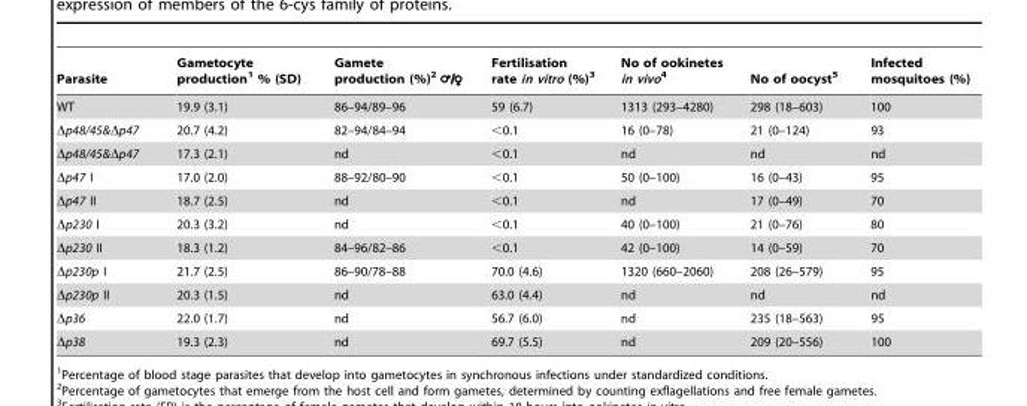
<table><thead><tr><td>Parasite</td><td>Gametocyte production<sup>1</sup> % (SD)</td><td>Gamete production (%)2 =/R</td><td>Fertilisation rate in vitro (%)<sup>3</sup></td><td>No of ookinetes in vivo4</td><td>No of oocyst<sup>5</sup></td><td>Infected mosquitoes (%)</td></tr></thead><tbody><tr><td>WT</td><td>19.9 (3.1)</td><td>86–94/89–96</td><td>59 (6.7)</td><td>1313 (293–4280)</td><td>298 (18–603)</td><td>100</td></tr><tr><td>Δp48/45&amp;Δp47</td><td>20.7 (4.2)</td><td>82–94/84–94</td><td>&lt;0.1</td><td>16 (0–78)</td><td>21 (0–124)</td><td>93</td></tr><tr><td>Δp48/45&amp;Δp47</td><td>17.3 (2.1)</td><td>nd</td><td>&lt;0.1</td><td>nd</td><td>nd</td><td>nd</td></tr><tr><td>Δp47 I</td><td>17.0 (2.0)</td><td>88–92/80–90</td><td>&lt;0.1</td><td>50 (0–100)</td><td>16 (0–43)</td><td>95</td></tr><tr><td>Δp47 II</td><td>18.7 (2.5)</td><td>nd</td><td>&lt;0.1</td><td>nd</td><td>17 (0–49)</td><td>70</td></tr><tr><td>Δp230 I</td><td>20.3 (3.2)</td><td>nd</td><td>&lt;0.1</td><td>40 (0–100)</td><td>21 (0–76)</td><td>80</td></tr><tr><td>Δp230 II</td><td>18.3 (1.2)</td><td>84–96/82–86</td><td>&lt;0.1</td><td>42 (0–100)</td><td>14 (0–59)</td><td>70</td></tr><tr><td>Δp230p I</td><td>21.7 (2.5)</td><td>86–90/78–88</td><td>70.0 (4.6)</td><td>1320 (660–2060)</td><td>208 (26–579)</td><td>95</td></tr><tr><td>Δp230p II</td><td>20.3 (1.5)</td><td>nd</td><td>63.0 (4.4)</td><td>nd</td><td>nd</td><td>nd</td></tr><tr><td>Δp36</td><td>22.0 (1.7)</td><td>nd</td><td>56.7 (6.0)</td><td>nd</td><td>235 (18–563)</td><td>95</td></tr><tr><td>Δp38</td><td>19.3 (2.3)</td><td>nd</td><td>69.7 (5.5)</td><td>nd</td><td>209 (20–556)</td><td>100</td></tr></tbody></table>